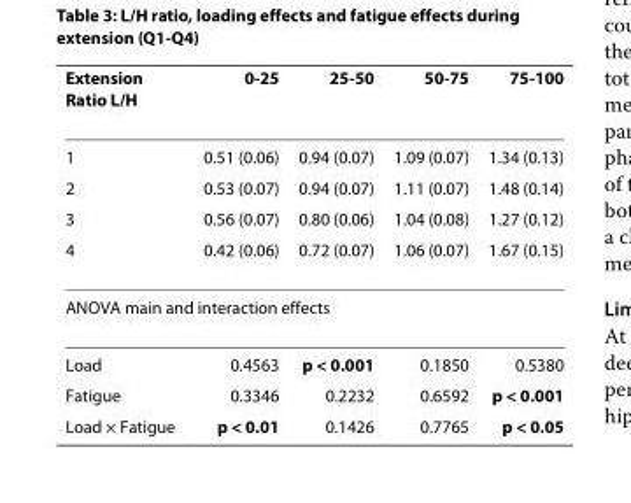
<table><thead><tr><td>Extension Ratio L/H</td><td>0-25</td><td>25-50</td><td>50-75</td><td>75-100</td></tr></thead><tbody><tr><td>1</td><td>0.51 (0.06)</td><td>0.94 (0.07)</td><td>1.09 (0.07)</td><td>1.34 (0.13)</td></tr><tr><td>2</td><td>0.53 (0.07)</td><td>0.94 (0.07)</td><td>1.11 (0.07)</td><td>1.48 (0.14)</td></tr><tr><td>3</td><td>0.56 (0.07)</td><td>0.80 (0.06)</td><td>1.04 (0.08)</td><td>1.27 (0.12)</td></tr><tr><td>4</td><td>0.42 (0.06)</td><td>0.72 (0.07)</td><td>1.06 (0.07)</td><td>1.67 (0.15)</td></tr><tr><td colspan="5">ANOVA main and interaction effects</td></tr><tr><td>Load</td><td>0.4563</td><td>p &lt; 0.001</td><td>0.1850</td><td>0.5380</td></tr><tr><td>Fatigue</td><td>0.3346</td><td>0.2232</td><td>0.6592</td><td>p &lt; 0.001</td></tr><tr><td>Load × Fatigue</td><td>p &lt; 0.01</td><td>0.1426</td><td>0.7765</td><td>p &lt; 0.05</td></tr></tbody></table>